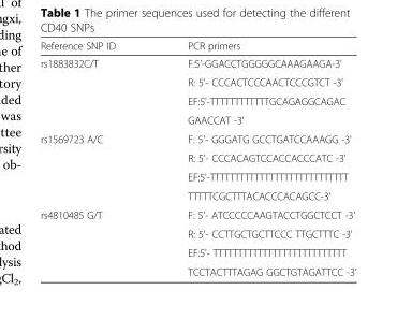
<table><thead><tr><td>Reference SNP ID</td><td>PCR primers</td></tr></thead><tbody><tr><td rowspan="4">rs1883832C/T</td><td>F:5&#x27;-GGACCTGGGGGCAAAGAAGA-3&#x27;</td></tr><tr><td>R: 5&#x27;- CCCACTCCCAACTCCCGTCT -3&#x27;</td></tr><tr><td>EF:5&#x27;-TTTTTTTTTTTTGCAGAGGCAGAC</td></tr><tr><td>GAACCAT -3&#x27;</td></tr><tr><td rowspan="4">rs1569723 A/C</td><td>F: 5&#x27;- GGGATG GCCTGATCCAAAGG -3&#x27;</td></tr><tr><td>R: 5&#x27;- CCCACAGTCCACCACCCATC -3&#x27;</td></tr><tr><td>EF:5&#x27;-TTTTTTTTTTTTTTTTTTTTTTTTTTTT</td></tr><tr><td>TTTTTCGCTTTACACCCACAGCC-3&#x27;</td></tr><tr><td rowspan="4">rs4810485 G/T</td><td>F: 5&#x27;- ATCCCCCAAGTACCTGGCTCCT -3&#x27;</td></tr><tr><td>R: 5&#x27;- CCTTGCTGCTTCCC TTGCTTTC -3&#x27;</td></tr><tr><td>EF:5&#x27;- TTTTTTTTTTTTTTTTTTTTTTTTTTT</td></tr><tr><td>TCCTACTTTAGAG GGCTGTAGATTCC -3&#x27;</td></tr></tbody></table>